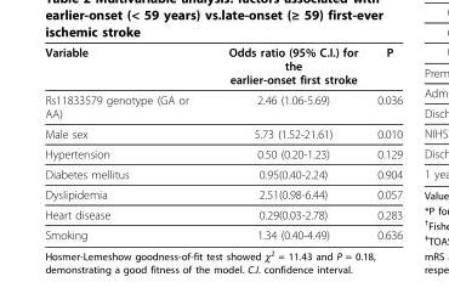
<table><thead><tr><td>Variable</td><td>Odds ratio (95% C.I.) for the earlier-onset first stroke</td><td>P</td></tr></thead><tbody><tr><td>Rs11833579 genotype (GA or AA)</td><td>2.46 (1.06-5.69)</td><td>0.036</td></tr><tr><td>Male sex</td><td>5.73 (1.52-21.61)</td><td>0.010</td></tr><tr><td>Hypertension</td><td>0.50 (0.20-1.23)</td><td>0.129</td></tr><tr><td>Diabetes mellitus</td><td>0.95(0.40-2.24)</td><td>0.904</td></tr><tr><td>Dyslipidemia</td><td>2.51(0.98-6.44)</td><td>0.057</td></tr><tr><td>Heart disease</td><td>0.29(0.03-2.78)</td><td>0.283</td></tr><tr><td>Smoking</td><td>1.34 (0.40-4.49)</td><td>0.636</td></tr></tbody></table>